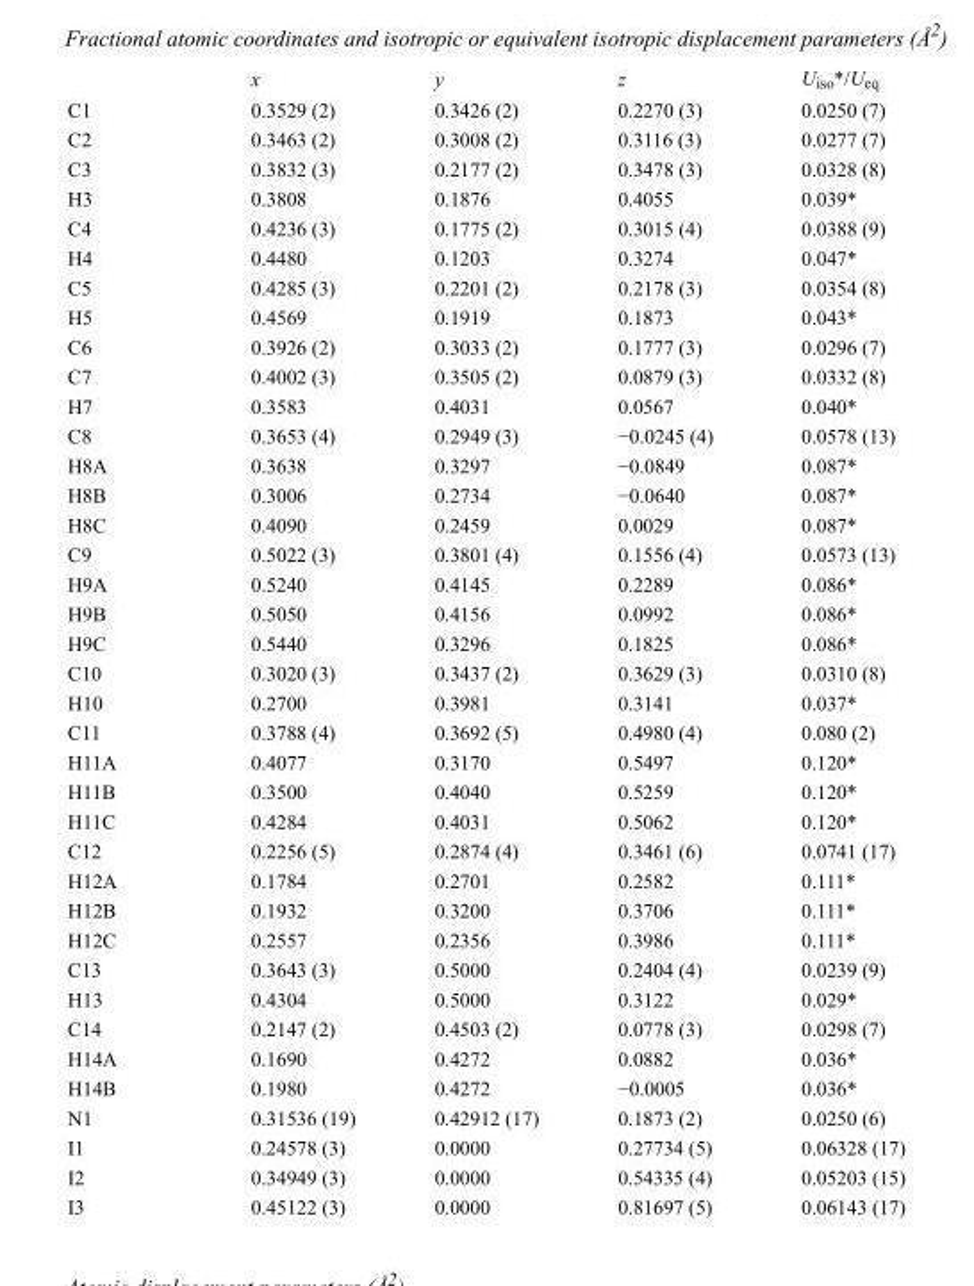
<table><thead><tr><td></td><td>x</td><td>y</td><td>z</td><td>U<sub>iso</sub>*/U<sub>eq</sub></td></tr></thead><tbody><tr><td>C1</td><td>0.3529 (2)</td><td>0.3426 (2)</td><td>0.2270 (3)</td><td>0.0250 (7)</td></tr><tr><td>C2</td><td>0.3463 (2)</td><td>0.3008 (2)</td><td>0.3116 (3)</td><td>0.0277 (7)</td></tr><tr><td>C3</td><td>0.3832 (3)</td><td>0.2177 (2)</td><td>0.3478 (3)</td><td>0.0328 (8)</td></tr><tr><td>H3</td><td>0.3808</td><td>0.1876</td><td>0.4055</td><td>0.039*</td></tr><tr><td>C4</td><td>0.4236 (3)</td><td>0.1775 (2)</td><td>0.3015 (4)</td><td>0.0388 (9)</td></tr><tr><td>H4</td><td>0.4480</td><td>0.1203</td><td>0.3274</td><td>0.047*</td></tr><tr><td>C5</td><td>0.4285 (3)</td><td>0.2201 (2)</td><td>0.2178 (3)</td><td>0.0354 (8)</td></tr><tr><td>H5</td><td>0.4569</td><td>0.1919</td><td>0.1873</td><td>0.043*</td></tr><tr><td>C6</td><td>0.3926 (2)</td><td>0.3033 (2)</td><td>0.1777 (3)</td><td>0.0296 (7)</td></tr><tr><td>C7</td><td>0.4002 (3)</td><td>0.3505 (2)</td><td>0.0879 (3)</td><td>0.0332 (8)</td></tr><tr><td>H7</td><td>0.3583</td><td>0.4031</td><td>0.0567</td><td>0.040*</td></tr><tr><td>C8</td><td>0.3653 (4)</td><td>0.2949 (3)</td><td>−0.0245 (4)</td><td>0.0578 (13)</td></tr><tr><td>H8A</td><td>0.3638</td><td>0.3297</td><td>−0.0849</td><td>0.087*</td></tr><tr><td>H8B</td><td>0.3006</td><td>0.2734</td><td>−0.0640</td><td>0.087*</td></tr><tr><td>H8C</td><td>0.4090</td><td>0.2459</td><td>0.0029</td><td>0.087*</td></tr><tr><td>C9</td><td>0.5022 (3)</td><td>0.3801 (4)</td><td>0.1556 (4)</td><td>0.0573 (13)</td></tr><tr><td>H9A</td><td>0.5240</td><td>0.4145</td><td>0.2289</td><td>0.086*</td></tr><tr><td>H9B</td><td>0.5050</td><td>0.4156</td><td>0.0992</td><td>0.086*</td></tr><tr><td>H9C</td><td>0.5440</td><td>0.3296</td><td>0.1825</td><td>0.086*</td></tr><tr><td>C10</td><td>0.3020 (3)</td><td>0.3437 (2)</td><td>0.3629 (3)</td><td>0.0310 (8)</td></tr><tr><td>H10</td><td>0.2700</td><td>0.3981</td><td>0.3141</td><td>0.037*</td></tr><tr><td>C11</td><td>0.3788 (4)</td><td>0.3692 (5)</td><td>0.4980 (4)</td><td>0.080 (2)</td></tr><tr><td>H11A</td><td>0.4077</td><td>0.3170</td><td>0.5497</td><td>0.120*</td></tr><tr><td>H11B</td><td>0.3500</td><td>0.4040</td><td>0.5259</td><td>0.120*</td></tr><tr><td>H11C</td><td>0.4284</td><td>0.4031</td><td>0.5062</td><td>0.120*</td></tr><tr><td>C12</td><td>0.2256 (5)</td><td>0.2874 (4)</td><td>0.3461 (6)</td><td>0.0741 (17)</td></tr><tr><td>H12A</td><td>0.1784</td><td>0.2701</td><td>0.2582</td><td>0.111*</td></tr><tr><td>H12B</td><td>0.1932</td><td>0.3200</td><td>0.3706</td><td>0.111*</td></tr><tr><td>H12C</td><td>0.2557</td><td>0.2356</td><td>0.3986</td><td>0.111*</td></tr><tr><td>C13</td><td>0.3643 (3)</td><td>0.5000</td><td>0.2404 (4)</td><td>0.0239 (9)</td></tr><tr><td>H13</td><td>0.4304</td><td>0.5000</td><td>0.3122</td><td>0.029*</td></tr><tr><td>C14</td><td>0.2147 (2)</td><td>0.4503 (2)</td><td>0.0778 (3)</td><td>0.0298 (7)</td></tr><tr><td>H14A</td><td>0.1690</td><td>0.4272</td><td>0.0882</td><td>0.036*</td></tr><tr><td>H14B</td><td>0.1980</td><td>0.4272</td><td>−0.0005</td><td>0.036*</td></tr><tr><td>N1</td><td>0.31536 (19)</td><td>0.42912 (17)</td><td>0.1873 (2)</td><td>0.0250 (6)</td></tr><tr><td>I1</td><td>0.24578 (3)</td><td>0.0000</td><td>0.27734 (5)</td><td>0.06328 (17)</td></tr><tr><td>I2</td><td>0.34949 (3)</td><td>0.0000</td><td>0.54335 (4)</td><td>0.05203 (15)</td></tr><tr><td>I3</td><td>0.45122 (3)</td><td>0.0000</td><td>0.81697 (5)</td><td>0.06143 (17)</td></tr></tbody></table>